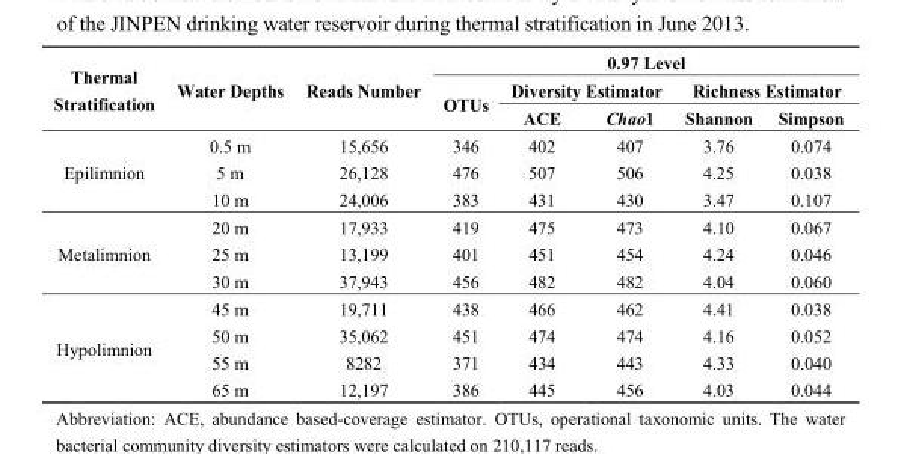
<table><thead><tr><td rowspan="3">Thermal Stratification</td><td rowspan="3">Water Depths</td><td rowspan="3">Reads Number</td><td colspan="5">0.97 Level</td></tr><tr><td rowspan="2">OTUs</td><td colspan="2">Diversity Estimator</td><td colspan="2">Richness Estimator</td></tr><tr><td>ACE</td><td>Chao1</td><td>Shannon</td><td>Simpson</td></tr></thead><tbody><tr><td rowspan="3">Epilimnion</td><td>0.5 m</td><td>15,656</td><td>346</td><td>402</td><td>407</td><td>3.76</td><td>0.074</td></tr><tr><td>5 m</td><td>26,128</td><td>476</td><td>507</td><td>506</td><td>4.25</td><td>0.038</td></tr><tr><td>10 m</td><td>24,006</td><td>383</td><td>431</td><td>430</td><td>3.47</td><td>0.107</td></tr><tr><td rowspan="3">Metalimnion</td><td>20 m</td><td>17,933</td><td>419</td><td>475</td><td>473</td><td>4.10</td><td>0.067</td></tr><tr><td>25 m</td><td>13,199</td><td>401</td><td>451</td><td>454</td><td>4.24</td><td>0.046</td></tr><tr><td>30 m</td><td>37,943</td><td>456</td><td>482</td><td>482</td><td>4.04</td><td>0.060</td></tr><tr><td rowspan="4">Hypolimnion</td><td>45 m</td><td>19,711</td><td>438</td><td>466</td><td>462</td><td>4.41</td><td>0.038</td></tr><tr><td>50 m</td><td>35,062</td><td>451</td><td>474</td><td>474</td><td>4.16</td><td>0.052</td></tr><tr><td>55 m</td><td>8282</td><td>371</td><td>434</td><td>443</td><td>4.33</td><td>0.040</td></tr><tr><td>65 m</td><td>12,197</td><td>386</td><td>445</td><td>456</td><td>4.03</td><td>0.044</td></tr></tbody></table>